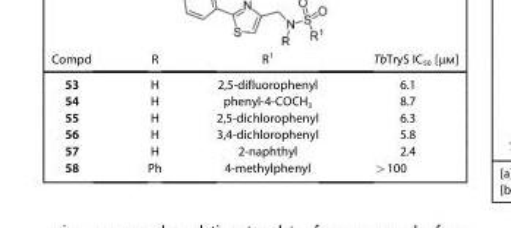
<table><thead><tr><td>Compd</td><td>R</td><td>R<sup>1</sup></td><td>TbTryS IC<sub>50</sub> [μm]</td></tr></thead><tbody><tr><td>53</td><td>H</td><td>2,5-difluorophenyl</td><td>6.1</td></tr><tr><td>54</td><td>H</td><td>phenyl-4-COCH<sub>3</sub></td><td>8.7</td></tr><tr><td>55</td><td>H</td><td>2,5-dichlorophenyl</td><td>6.3</td></tr><tr><td>56</td><td>H</td><td>3,4-dichlorophenyl</td><td>5.8</td></tr><tr><td>57</td><td>H</td><td>2-naphthyl</td><td>2.4</td></tr><tr><td>58</td><td>Ph</td><td>4-methylphenyl</td><td>&gt;100</td></tr></tbody></table>